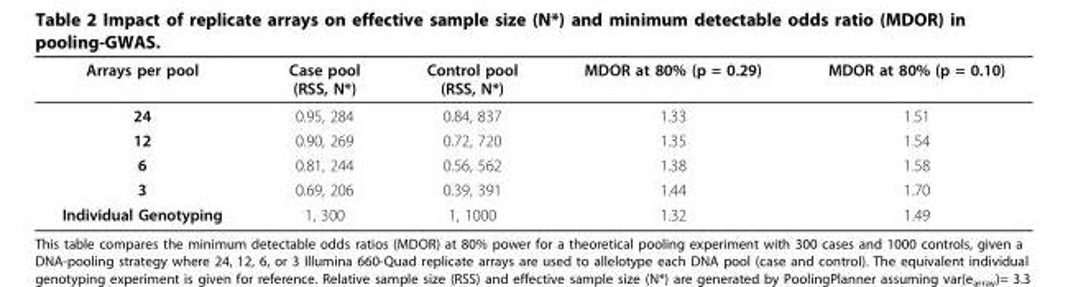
<table><thead><tr><td>Arrays per pool</td><td>Case pool (RSS, N*)</td><td>Control pool (RSS, N*)</td><td>MDOR at 80% (p = 0.29)</td><td>MDOR at 80% (p = 0.10)</td></tr></thead><tbody><tr><td>24</td><td>0.95, 284</td><td>0.84, 837</td><td>1.33</td><td>1.51</td></tr><tr><td>12</td><td>0.90, 269</td><td>0.72, 720</td><td>1.35</td><td>1.54</td></tr><tr><td>6</td><td>0.81, 244</td><td>0.56, 562</td><td>1.38</td><td>1.58</td></tr><tr><td>3</td><td>0.69, 206</td><td>0.39, 391</td><td>1.44</td><td>1.70</td></tr><tr><td>Individual Genotyping</td><td>1, 300</td><td>1, 1000</td><td>1.32</td><td>1.49</td></tr></tbody></table>